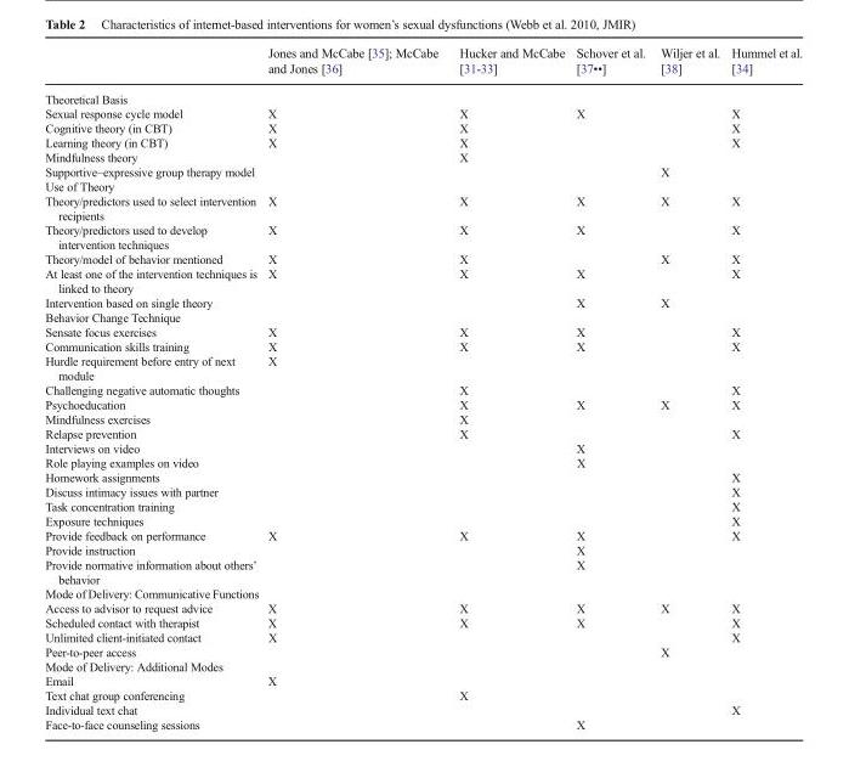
<table><thead><tr><td></td><td>Jones and McCabe [35]; McCabe and Jones [36]</td><td>Hucker and McCabe [31-33]</td><td>Schover et al. [37••]</td><td>Wiljer et al. [38]</td><td>Hummel et al. [34]</td></tr></thead><tbody><tr><td colspan="6">Theoretical Basis</td></tr><tr><td>Sexual response cycle model</td><td>X</td><td>X</td><td>X</td><td></td><td>X</td></tr><tr><td>Cognitive theory (in CBT)</td><td>X</td><td>X</td><td></td><td></td><td>X</td></tr><tr><td>Learning theory (in CBT)</td><td>X</td><td>X</td><td></td><td></td><td>X</td></tr><tr><td>Mindfulness theory</td><td></td><td>X</td><td></td><td></td><td></td></tr><tr><td>Supportive–expressive group therapy model</td><td></td><td></td><td></td><td>X</td><td></td></tr><tr><td colspan="6">Use of Theory</td></tr><tr><td>Theory/predictors used to select intervention recipients</td><td>X</td><td>X</td><td>X</td><td>X</td><td>X</td></tr><tr><td>Theory/predictors used to develop intervention techniques</td><td>X</td><td>X</td><td>X</td><td></td><td>X</td></tr><tr><td>Theory/model of behavior mentioned</td><td>X</td><td>X</td><td></td><td>X</td><td>X</td></tr><tr><td>At least one of the intervention techniques is linked to theory</td><td>X</td><td>X</td><td>X</td><td></td><td>X</td></tr><tr><td>Intervention based on single theory</td><td></td><td></td><td>X</td><td>X</td><td></td></tr><tr><td colspan="6">Behavior Change Technique</td></tr><tr><td>Sensate focus exercises</td><td>X</td><td>X</td><td>X</td><td></td><td>X</td></tr><tr><td>Communication skills training</td><td>X</td><td>X</td><td>X</td><td></td><td>X</td></tr><tr><td>Hurdle requirement before entry of next module</td><td>X</td><td></td><td></td><td></td><td></td></tr><tr><td>Challenging negative automatic thoughts</td><td></td><td>X</td><td></td><td></td><td>X</td></tr><tr><td>Psychoeducation</td><td></td><td>X</td><td>X</td><td>X</td><td>X</td></tr><tr><td>Mindfulness exercises</td><td></td><td>X</td><td></td><td></td><td></td></tr><tr><td>Relapse prevention</td><td></td><td>X</td><td></td><td></td><td>X</td></tr><tr><td>Interviews on video</td><td></td><td></td><td>X</td><td></td><td></td></tr><tr><td>Role playing examples on video</td><td></td><td></td><td>X</td><td></td><td></td></tr><tr><td>Homework assignments</td><td></td><td></td><td></td><td></td><td>X</td></tr><tr><td>Discuss intimacy issues with partner</td><td></td><td></td><td></td><td></td><td>X</td></tr><tr><td>Task concentration training</td><td></td><td></td><td></td><td></td><td>X</td></tr><tr><td>Exposure techniques</td><td></td><td></td><td></td><td></td><td>X</td></tr><tr><td>Provide feedback on performance</td><td>X</td><td>X</td><td>X</td><td></td><td>X</td></tr><tr><td>Provide instruction</td><td></td><td></td><td>X</td><td></td><td></td></tr><tr><td>Provide normative information about others’ behavior</td><td></td><td></td><td>X</td><td></td><td></td></tr><tr><td colspan="6">Mode of Delivery: Communicative Functions</td></tr><tr><td>Access to advisor to request advice</td><td>X</td><td>X</td><td>X</td><td>X</td><td>X</td></tr><tr><td>Scheduled contact with therapist</td><td>X</td><td>X</td><td>X</td><td></td><td>X</td></tr><tr><td>Unlimited client-initiated contact</td><td>X</td><td></td><td></td><td></td><td>X</td></tr><tr><td>Peer-to-peer access</td><td></td><td></td><td></td><td>X</td><td></td></tr><tr><td colspan="6">Mode of Delivery: Additional Modes</td></tr><tr><td>Email</td><td>X</td><td></td><td></td><td></td><td></td></tr><tr><td>Text chat group conferencing</td><td></td><td>X</td><td></td><td></td><td></td></tr><tr><td>Individual text chat</td><td></td><td></td><td></td><td></td><td>X</td></tr><tr><td>Face-to-face counseling sessions</td><td></td><td></td><td>X</td><td></td><td></td></tr></tbody></table>